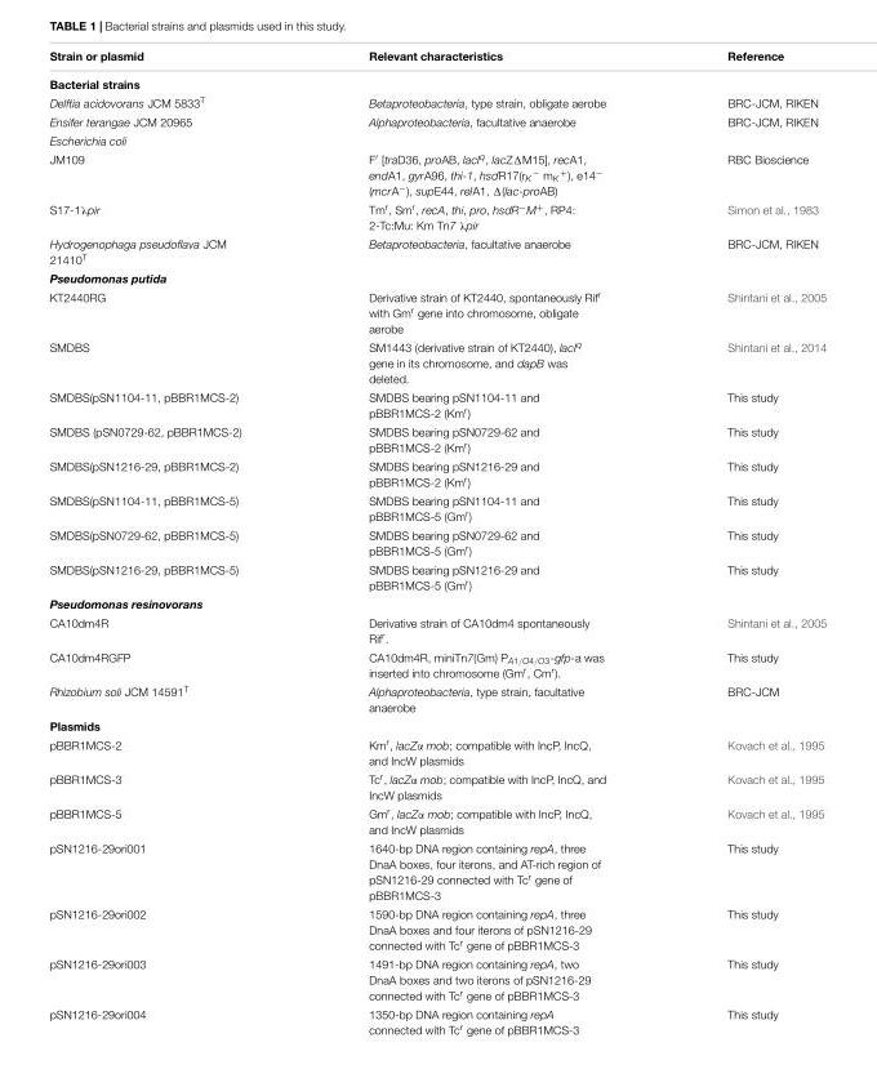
<table><thead><tr><td>Strain or plasmid</td><td>Relevant characteristics</td><td>Reference</td></tr></thead><tbody><tr><td colspan="3">Bacterial strains</td></tr><tr><td>Delftia acidovorans JCM 5833<sup>T</sup></td><td>Betaproteobacteria, type strain, obligate aerobe</td><td>BRC-JCM, RIKEN</td></tr><tr><td>Ensifer terangae JCM 20965</td><td>Alphaproteobacteria, facultative anaerobe</td><td>BRC-JCM, RIKEN</td></tr><tr><td colspan="3">Escherichia coli</td></tr><tr><td>JM109</td><td>F′ [traD36, proAB, lacI<sup>q</sup>, lacZΔM15], recA1, endA1, gyrA96, thi-1, hsdR17(r<sub>K</sub><sup>−</sup> m<sub>K</sub><sup>+</sup>), e14<sup>−</sup> (mcrA<sup>−</sup>), supE44, relA1, Δ(lac-proAB)</td><td>RBC Bioscience</td></tr><tr><td>S17-1λpir</td><td>Tm<sup>r</sup>, Sm<sup>r</sup>, recA, thi, pro, hsdR<sup>−</sup>M<sup>+</sup>, RP4: 2-Tc:Mu: Km Tn7 λpir</td><td>Simon et al., 1983</td></tr><tr><td>Hydrogenophaga pseudoflava JCM 21410<sup>T</sup></td><td>Betaproteobacteria, facultative anaerobe</td><td>BRC-JCM, RIKEN</td></tr><tr><td colspan="3">Pseudomonas putida</td></tr><tr><td>KT2440RG</td><td>Derivative strain of KT2440, spontaneously Rif<sup>r</sup> with Gm<sup>r</sup> gene into chromosome, obligate aerobe</td><td>Shintani et al., 2005</td></tr><tr><td>SMDBS</td><td>SM1443 (derivative strain of KT2440), lacI<sup>q</sup> gene in its chromosome, and dapB was deleted.</td><td>Shintani et al., 2014</td></tr><tr><td>SMDBS(pSN1104-11, pBBR1MCS-2)</td><td>SMDBS bearing pSN1104-11 and pBBR1MCS-2 (Km<sup>r</sup>)</td><td>This study</td></tr><tr><td>SMDBS (pSN0729-62, pBBR1MCS-2)</td><td>SMDBS bearing pSN0729-62 and pBBR1MCS-2 (Km<sup>r</sup>)</td><td>This study</td></tr><tr><td>SMDBS(pSN1216-29, pBBR1MCS-2)</td><td>SMDBS bearing pSN1216-29 and pBBR1MCS-2 (Km<sup>r</sup>)</td><td>This study</td></tr><tr><td>SMDBS(pSN1104-11, pBBR1MCS-5)</td><td>SMDBS bearing pSN1104-11 and pBBR1MCS-5 (Gm<sup>r</sup>)</td><td>This study</td></tr><tr><td>SMDBS(pSN0729-62, pBBR1MCS-5)</td><td>SMDBS bearing pSN0729-62 and pBBR1MCS-5 (Gm<sup>r</sup>)</td><td>This study</td></tr><tr><td>SMDBS(pSN1216-29, pBBR1MCS-5)</td><td>SMDBS bearing pSN1216-29 and pBBR1MCS-5 (Gm<sup>r</sup>)</td><td>This study</td></tr><tr><td colspan="3">Pseudomonas resinovorans</td></tr><tr><td>CA10dm4R</td><td>Derivative strain of CA10dm4 spontaneously Rif<sup>r</sup>.</td><td>Shintani et al., 2005</td></tr><tr><td>CA10dm4RGFP</td><td>CA10dm4R, miniTn7(Gm) P<sub>A1/O4/O3</sub>-gfp-a was inserted into chromosome (Gm<sup>r</sup>, Cm<sup>r</sup>).</td><td>This study</td></tr><tr><td>Rhizobium soli JCM 14591<sup>T</sup></td><td>Alphaproteobacteria, type strain, facultative anaerobe</td><td>BRC-JCM</td></tr><tr><td colspan="3">Plasmids</td></tr><tr><td>pBBR1MCS-2</td><td>Km<sup>r</sup>, lacZα mob; compatible with IncP, IncQ, and IncW plasmids</td><td>Kovach et al., 1995</td></tr><tr><td>pBBR1MCS-3</td><td>Tc<sup>r</sup>, lacZα mob; compatible with IncP, IncQ, and IncW plasmids</td><td>Kovach et al., 1995</td></tr><tr><td>pBBR1MCS-5</td><td>Gm<sup>r</sup>, lacZα mob; compatible with IncP, IncQ, and IncW plasmids</td><td>Kovach et al., 1995</td></tr><tr><td>pSN1216-29ori001</td><td>1640-bp DNA region containing repA, three DnaA boxes, four iterons, and AT-rich region of pSN1216-29 connected with Tc<sup>r</sup> gene of pBBR1MCS-3</td><td>This study</td></tr><tr><td>pSN1216-29ori002</td><td>1590-bp DNA region containing repA, three DnaA boxes and four iterons of pSN1216-29 connected with Tc<sup>r</sup> gene of pBBR1MCS-3</td><td>This study</td></tr><tr><td>pSN1216-29ori003</td><td>1491-bp DNA region containing repA, two DnaA boxes and two iterons of pSN1216-29 connected with Tc<sup>r</sup> gene of pBBR1MCS-3</td><td>This study</td></tr><tr><td>pSN1216-29ori004</td><td>1350-bp DNA region containing repA connected with Tc<sup>r</sup> gene of pBBR1MCS-3</td><td>This study</td></tr></tbody></table>